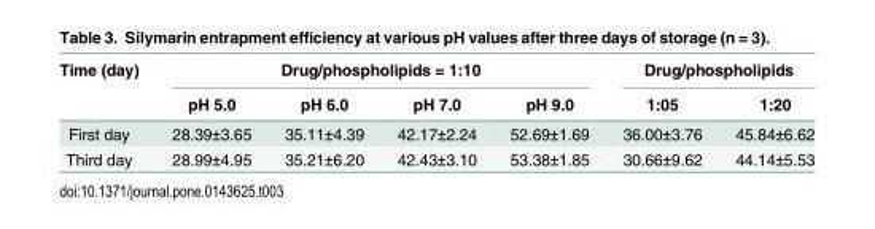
<table><thead><tr><td rowspan="2">Time (day)</td><td colspan="4">Drug/phospholipids = 1:10</td><td colspan="2">Drug/phospholipids</td></tr><tr><td>pH 5.0</td><td>pH 6.0</td><td>pH 7.0</td><td>pH 9.0</td><td>1:05</td><td>1:20</td></tr></thead><tbody><tr><td>First day</td><td>28.39±3.65</td><td>35.11±4.39</td><td>42.17±2.24</td><td>52.69±1.69</td><td>36.00±3.76</td><td>45.84±6.62</td></tr><tr><td>Third day</td><td>28.99±4.95</td><td>35.21±6.20</td><td>42.43±3.10</td><td>53.38±1.85</td><td>30.66±9.62</td><td>44.14±5.53</td></tr></tbody></table>